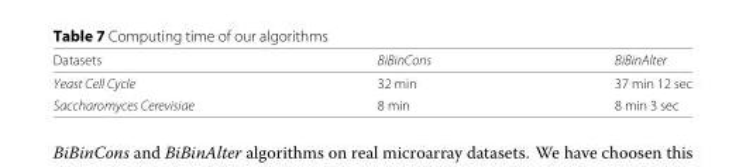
<table><thead><tr><td>Datasets</td><td>BiBinCons</td><td>BiBinAlter</td></tr></thead><tbody><tr><td>Yeast Cell Cycle</td><td>32 min</td><td>37 min 12 sec</td></tr><tr><td>Saccharomyces Cerevisiae</td><td>8 min</td><td>8 min 3 sec</td></tr></tbody></table>